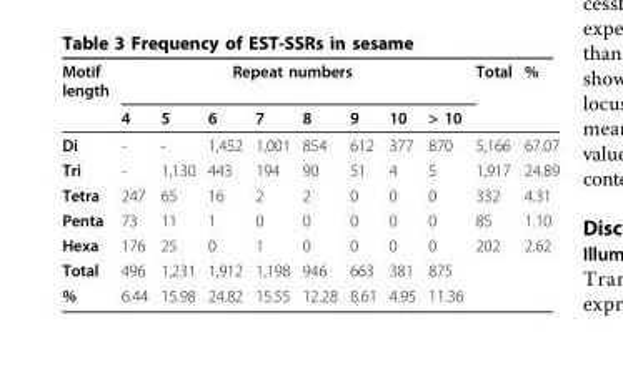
<table><thead><tr><td rowspan="2">Motif length</td><td colspan="8">Repeat numbers</td><td rowspan="2">Total</td><td rowspan="2">%</td></tr><tr><td>4</td><td>5</td><td>6</td><td>7</td><td>8</td><td>9</td><td>10</td><td>&gt; 10</td></tr></thead><tbody><tr><td>Di</td><td>-</td><td>-</td><td>1,452</td><td>1,001</td><td>854</td><td>612</td><td>377</td><td>870</td><td>5,166</td><td>67.07</td></tr><tr><td>Tri</td><td>-</td><td>1,130</td><td>443</td><td>194</td><td>90</td><td>51</td><td>4</td><td>5</td><td>1,917</td><td>24.89</td></tr><tr><td>Tetra</td><td>247</td><td>65</td><td>16</td><td>2</td><td>2</td><td>0</td><td>0</td><td>0</td><td>332</td><td>4.31</td></tr><tr><td>Penta</td><td>73</td><td>11</td><td>1</td><td>0</td><td>0</td><td>0</td><td>0</td><td>0</td><td>85</td><td>1.10</td></tr><tr><td>Hexa</td><td>176</td><td>25</td><td>0</td><td>1</td><td>0</td><td>0</td><td>0</td><td>0</td><td>202</td><td>2.62</td></tr><tr><td>Total</td><td>496</td><td>1,231</td><td>1,912</td><td>1,198</td><td>946</td><td>663</td><td>381</td><td>875</td><td></td><td></td></tr><tr><td>%</td><td>6.44</td><td>15.98</td><td>24.82</td><td>15.55</td><td>12.28</td><td>8.61</td><td>4.95</td><td>11.36</td><td></td><td></td></tr></tbody></table>